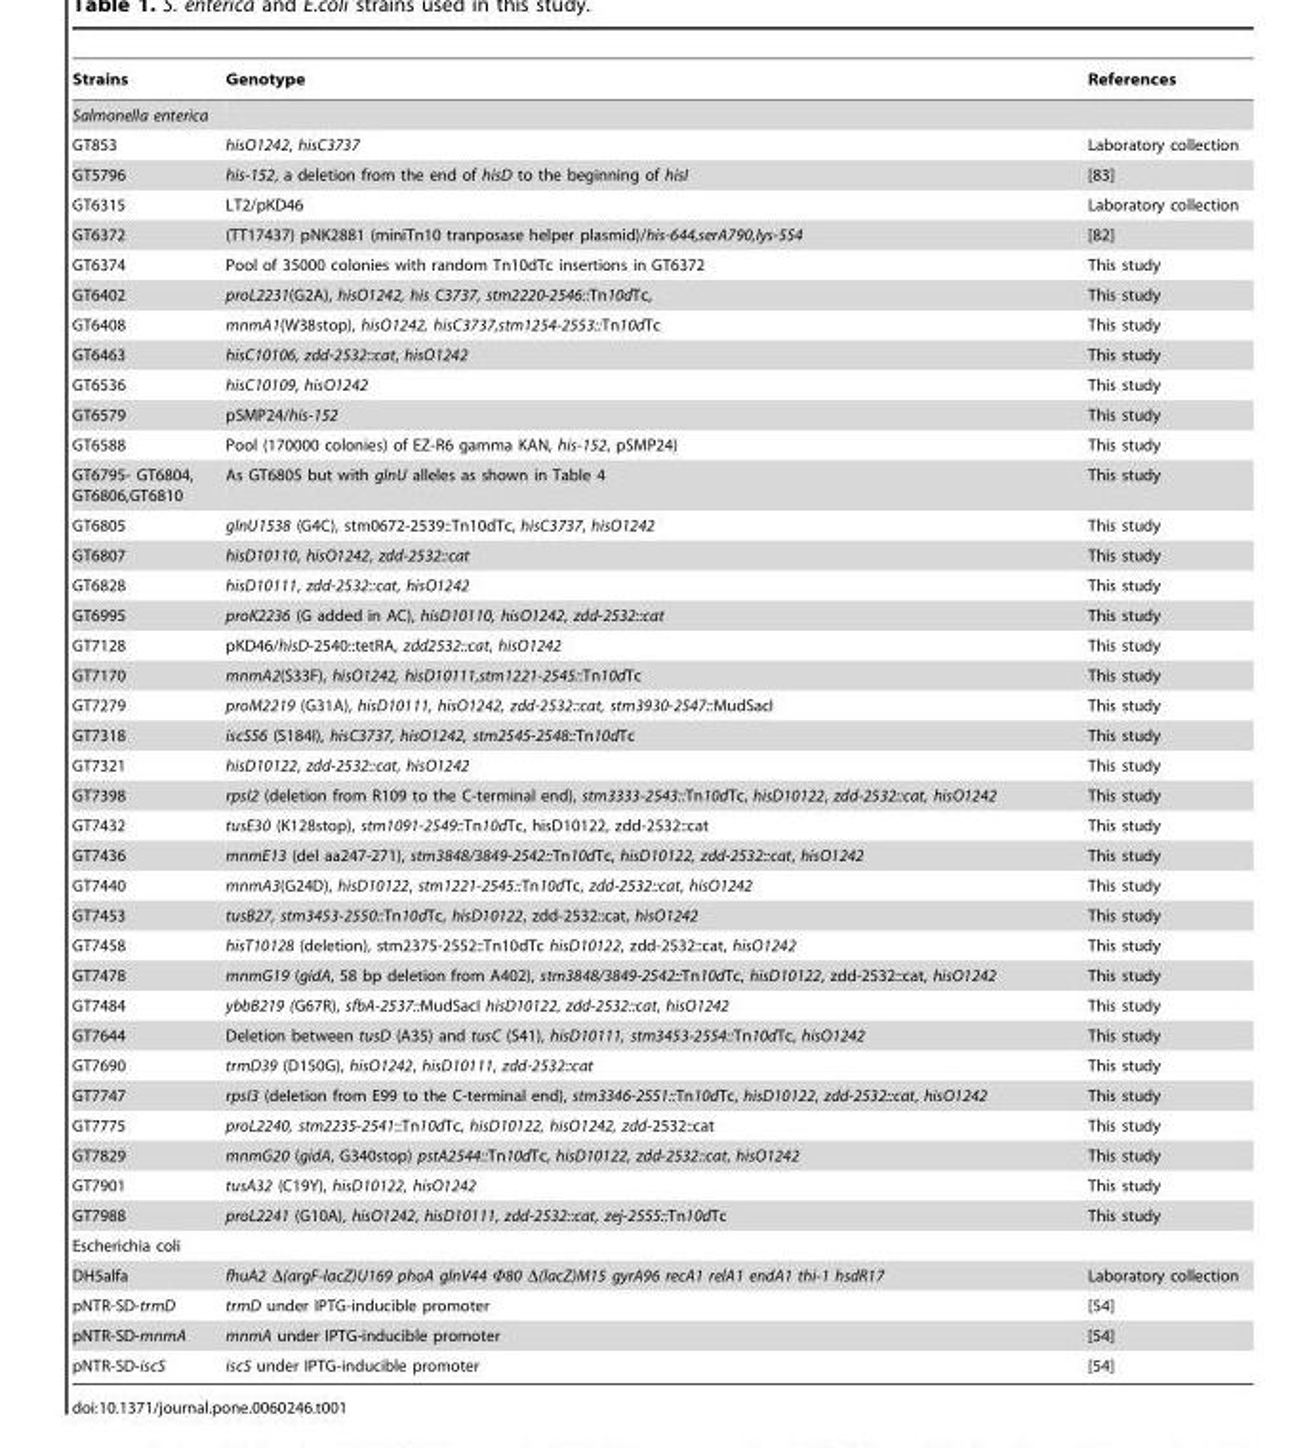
<table><thead><tr><td>Strains</td><td>Genotype</td><td>References</td></tr></thead><tbody><tr><td colspan="3">Salmonella enterica</td></tr><tr><td>GT853</td><td>hisO1242, hisC3737</td><td>Laboratory collection</td></tr><tr><td>GT5796</td><td>his-152, a deletion from the end of hisD to the beginning of hisI</td><td>[83]</td></tr><tr><td>GT6315</td><td>LT2/pKD46</td><td>Laboratory collection</td></tr><tr><td>GT6372</td><td>(TT17437) pNK2881 (miniTn10 tranposase helper plasmid)/his-644,serA790,lys-554</td><td>[82]</td></tr><tr><td>GT6374</td><td>Pool of 35000 colonies with random Tn10dTc insertions in GT6372</td><td>This study</td></tr><tr><td>GT6402</td><td>proL2231(G2A), hisO1242, his C3737, stm2220-2546::Tn10dTc,</td><td>This study</td></tr><tr><td>GT6408</td><td>mnmA1(W38stop), hisO1242, hisC3737,stm1254-2553::Tn10dTc</td><td>This study</td></tr><tr><td>GT6463</td><td>hisC10106, zdd-2532::cat, hisO1242</td><td>This study</td></tr><tr><td>GT6536</td><td>hisC10109, hisO1242</td><td>This study</td></tr><tr><td>GT6579</td><td>pSMP24/his-152</td><td>This study</td></tr><tr><td>GT6588</td><td>Pool (170000 colonies) of EZ-R6 gamma KAN, his-152, pSMP24)</td><td>This study</td></tr><tr><td>GT6795- GT6804, GT6806,GT6810</td><td>As GT6805 but with glnU alleles as shown in Table 4</td><td>This study</td></tr><tr><td>GT6805</td><td>glnU1538 (G4C), stm0672-2539::Tn10dTc, hisC3737, hisO1242</td><td>This study</td></tr><tr><td>GT6807</td><td>hisD10110, hisO1242, zdd-2532::cat</td><td>This study</td></tr><tr><td>GT6828</td><td>hisD10111, zdd-2532::cat, hisO1242</td><td>This study</td></tr><tr><td>GT6995</td><td>proK2236 (G added in AC), hisD10110, hisO1242, zdd-2532::cat</td><td>This study</td></tr><tr><td>GT7128</td><td>pKD46/hisD-2540::tetRA, zdd2532::cat, hisO1242</td><td>This study</td></tr><tr><td>GT7170</td><td>mnmA2(S33F), hisO1242, hisD10111,stm1221-2545::Tn10dTc</td><td>This study</td></tr><tr><td>GT7279</td><td>proM2219 (G31A), hisD10111, hisO1242, zdd-2532::cat, stm3930-2547::MudSacI</td><td>This study</td></tr><tr><td>GT7318</td><td>iscS56 (S184I), hisC3737, hisO1242, stm2545-2548::Tn10dTc</td><td>This study</td></tr><tr><td>GT7321</td><td>hisD10122, zdd-2532::cat, hisO1242</td><td>This study</td></tr><tr><td>GT7398</td><td>rpsI2 (deletion from R109 to the C-terminal end), stm3333-2543::Tn10dTc, hisD10122, zdd-2532::cat, hisO1242</td><td>This study</td></tr><tr><td>GT7432</td><td>tusE30 (K128stop), stm1091-2549::Tn10dTc, hisD10122, zdd-2532::cat</td><td>This study</td></tr><tr><td>GT7436</td><td>mnmE13 (del aa247-271), stm3848/3849-2542::Tn10dTc, hisD10122, zdd-2532::cat, hisO1242</td><td>This study</td></tr><tr><td>GT7440</td><td>mnmA3(G24D), hisD10122, stm1221-2545::Tn10dTc, zdd-2532::cat, hisO1242</td><td>This study</td></tr><tr><td>GT7453</td><td>tusB27, stm3453-2550::Tn10dTc, hisD10122, zdd-2532::cat, hisO1242</td><td>This study</td></tr><tr><td>GT7458</td><td>hisT10128 (deletion), stm2375-2552::Tn10dTc hisD10122, zdd-2532::cat, hisO1242</td><td>This study</td></tr><tr><td>GT7478</td><td>mnmG19 (gidA, 58 bp deletion from A402), stm3848/3849-2542::Tn10dTc, hisD10122, zdd-2532::cat, hisO1242</td><td>This study</td></tr><tr><td>GT7484</td><td>ybbB219 (G67R), sfbA-2537::MudSacI hisD10122, zdd-2532::cat, hisO1242</td><td>This study</td></tr><tr><td>GT7644</td><td>Deletion between tusD (A35) and tusC (S41), hisD10111, stm3453-2554::Tn10dTc, hisO1242</td><td>This study</td></tr><tr><td>GT7690</td><td>trmD39 (D150G), hisO1242, hisD10111, zdd-2532::cat</td><td>This study</td></tr><tr><td>GT7747</td><td>rpsI3 (deletion from E99 to the C-terminal end), stm3346-2551::Tn10dTc, hisD10122, zdd-2532::cat, hisO1242</td><td>This study</td></tr><tr><td>GT7775</td><td>proL2240, stm2235-2541::Tn10dTc, hisD10122, hisO1242, zdd-2532::cat</td><td>This study</td></tr><tr><td>GT7829</td><td>mnmG20 (gidA, G340stop) pstA2544::Tn10dTc, hisD10122, zdd-2532::cat, hisO1242</td><td>This study</td></tr><tr><td>GT7901</td><td>tusA32 (C19Y), hisD10122, hisO1242</td><td>This study</td></tr><tr><td>GT7988</td><td>proL2241 (G10A), hisO1242, hisD10111, zdd-2532::cat, zej-2555::Tn10dTc</td><td>This study</td></tr><tr><td colspan="3">Escherichia coli</td></tr><tr><td>DH5alfa</td><td>fhuA2 Δ(argF-lacZ)U169 phoA glnV44 Φ80 Δ(lacZ)M15 gyrA96 recA1 relA1 endA1 thi-1 hsdR17</td><td>Laboratory collection</td></tr><tr><td>pNTR-SD-trmD</td><td>trmD under IPTG-inducible promoter</td><td>[54]</td></tr><tr><td>pNTR-SD-mnmA</td><td>mnmA under IPTG-inducible promoter</td><td>[54]</td></tr><tr><td>pNTR-SD-iscS</td><td>iscS under IPTG-inducible promoter</td><td>[54]</td></tr></tbody></table>